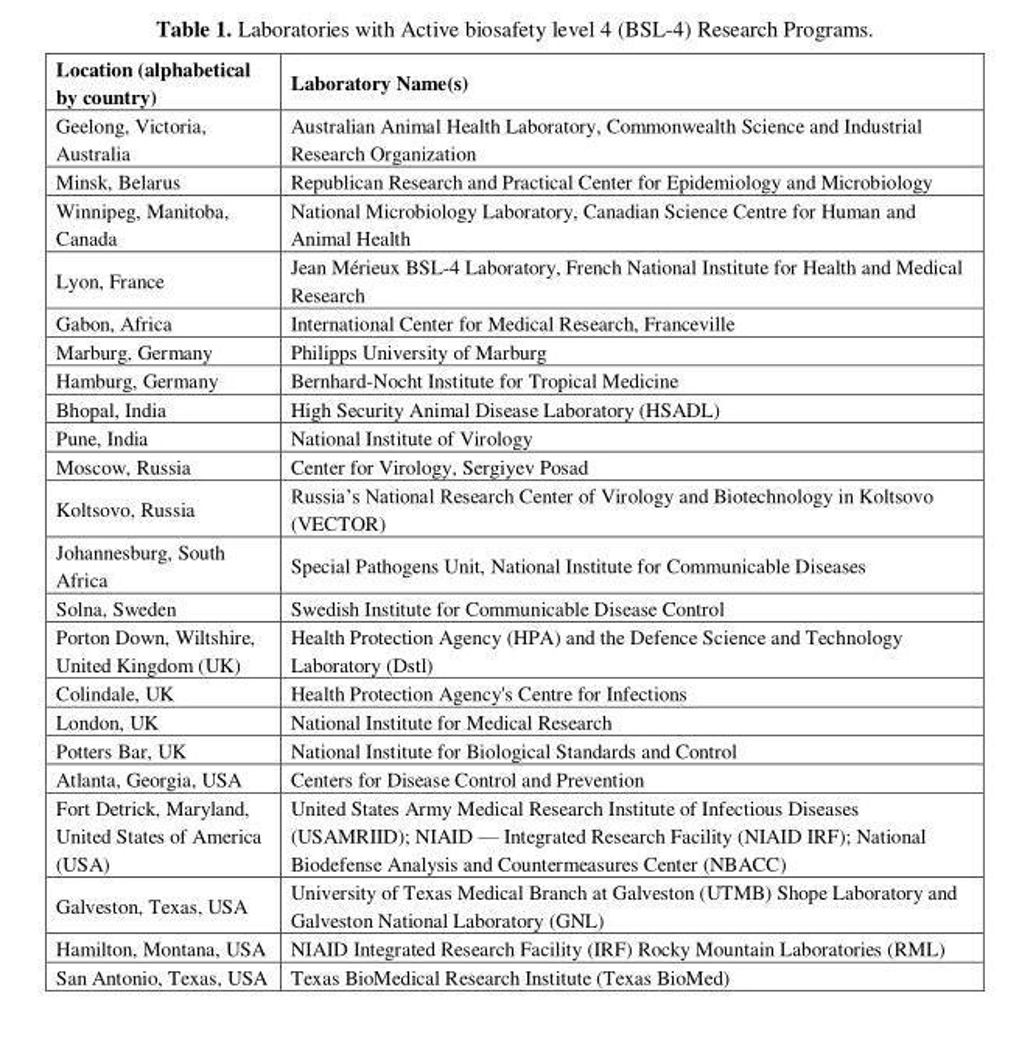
<table><thead><tr><td>Location (alphabetical by country)</td><td>Laboratory Name(s)</td></tr></thead><tbody><tr><td>Geelong, Victoria, Australia</td><td>Australian Animal Health Laboratory, Commonwealth Science and Industrial Research Organization</td></tr><tr><td>Minsk, Belarus</td><td>Republican Research and Practical Center for Epidemiology and Microbiology</td></tr><tr><td>Winnipeg, Manitoba, Canada</td><td>National Microbiology Laboratory, Canadian Science Centre for Human and Animal Health</td></tr><tr><td>Lyon, France</td><td>Jean Mérieux BSL-4 Laboratory, French National Institute for Health and Medical Research</td></tr><tr><td>Gabon, Africa</td><td>International Center for Medical Research, Franceville</td></tr><tr><td>Marburg, Germany</td><td>Philipps University of Marburg</td></tr><tr><td>Hamburg, Germany</td><td>Bernhard-Nocht Institute for Tropical Medicine</td></tr><tr><td>Bhopal, India</td><td>High Security Animal Disease Laboratory (HSADL)</td></tr><tr><td>Pune, India</td><td>National Institute of Virology</td></tr><tr><td>Moscow, Russia</td><td>Center for Virology, Sergiyev Posad</td></tr><tr><td>Koltsovo, Russia</td><td>Russia’s National Research Center of Virology and Biotechnology in Koltsovo (VECTOR)</td></tr><tr><td>Johannesburg, South Africa</td><td>Special Pathogens Unit, National Institute for Communicable Diseases</td></tr><tr><td>Solna, Sweden</td><td>Swedish Institute for Communicable Disease Control</td></tr><tr><td>Porton Down, Wiltshire, United Kingdom (UK)</td><td>Health Protection Agency (HPA) and the Defence Science and Technology Laboratory (Dstl)</td></tr><tr><td>Colindale, UK</td><td>Health Protection Agency&#x27;s Centre for Infections</td></tr><tr><td>London, UK</td><td>National Institute for Medical Research</td></tr><tr><td>Potters Bar, UK</td><td>National Institute for Biological Standards and Control</td></tr><tr><td>Atlanta, Georgia, USA</td><td>Centers for Disease Control and Prevention</td></tr><tr><td>Fort Detrick, Maryland, United States of America (USA)</td><td>United States Army Medical Research Institute of Infectious Diseases (USAMRIID); NIAID — Integrated Research Facility (NIAID IRF); National Biodefense Analysis and Countermeasures Center (NBACC)</td></tr><tr><td>Galveston, Texas, USA</td><td>University of Texas Medical Branch at Galveston (UTMB) Shope Laboratory and Galveston National Laboratory (GNL)</td></tr><tr><td>Hamilton, Montana, USA</td><td>NIAID Integrated Research Facility (IRF) Rocky Mountain Laboratories (RML)</td></tr><tr><td>San Antonio, Texas, USA</td><td>Texas BioMedical Research Institute (Texas BioMed)</td></tr></tbody></table>